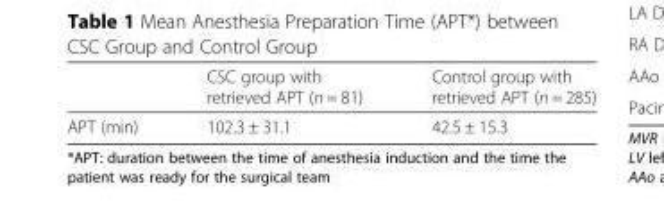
<table><thead><tr><td></td><td>CSC group with retrieved APT (n = 81)</td><td>Control group with retrieved APT (n = 285)</td></tr></thead><tbody><tr><td>APT (min)</td><td>102.3 ± 31.1</td><td>42.5 ± 15.3</td></tr></tbody></table>